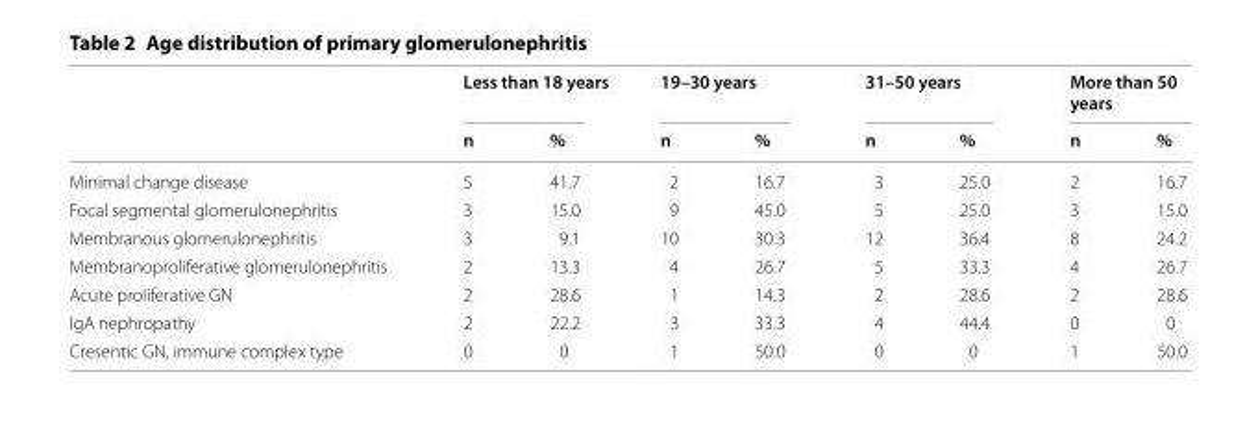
<table><thead><tr><td rowspan="2"></td><td colspan="2">Less than 18 years</td><td colspan="2">19–30 years</td><td colspan="2">31–50 years</td><td colspan="2">More than 50 years</td></tr><tr><td>n</td><td>%</td><td>n</td><td>%</td><td>n</td><td>%</td><td>n</td><td>%</td></tr></thead><tbody><tr><td>Minimal change disease</td><td>5</td><td>41.7</td><td>2</td><td>16.7</td><td>3</td><td>25.0</td><td>2</td><td>16.7</td></tr><tr><td>Focal segmental glomerulonephritis</td><td>3</td><td>15.0</td><td>9</td><td>45.0</td><td>5</td><td>25.0</td><td>3</td><td>15.0</td></tr><tr><td>Membranous glomerulonephritis</td><td>3</td><td>9.1</td><td>10</td><td>30.3</td><td>12</td><td>36.4</td><td>8</td><td>24.2</td></tr><tr><td>Membranoproliferative glomerulonephritis</td><td>2</td><td>13.3</td><td>4</td><td>26.7</td><td>5</td><td>33.3</td><td>4</td><td>26.7</td></tr><tr><td>Acute proliferative GN</td><td>2</td><td>28.6</td><td>1</td><td>14.3</td><td>2</td><td>28.6</td><td>2</td><td>28.6</td></tr><tr><td>IgA nephropathy</td><td>2</td><td>22.2</td><td>3</td><td>33.3</td><td>4</td><td>44.4</td><td>0</td><td>0</td></tr><tr><td>Cresentic GN, immune complex type</td><td>0</td><td>0</td><td>1</td><td>50.0</td><td>0</td><td>0</td><td>1</td><td>50.0</td></tr></tbody></table>